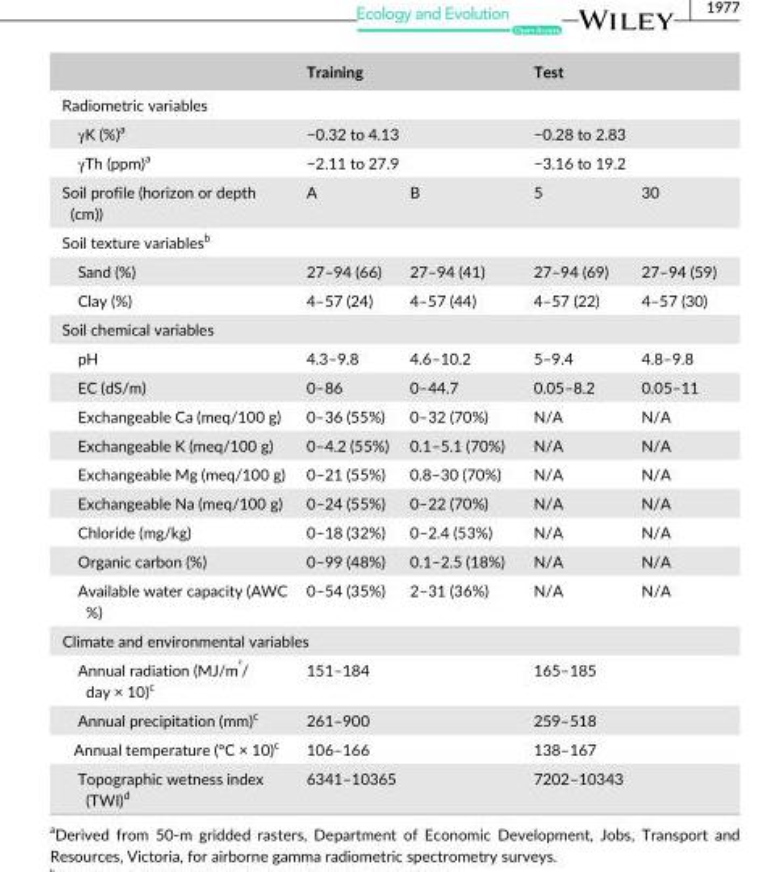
<table><thead><tr><td></td><td colspan="2">Training</td><td colspan="2">Test</td></tr></thead><tbody><tr><td colspan="5">Radiometric variables</td></tr><tr><td>γK (%)<sup>a</sup></td><td colspan="2">−0.32 to 4.13</td><td colspan="2">−0.28 to 2.83</td></tr><tr><td>γTh (ppm)<sup>a</sup></td><td colspan="2">−2.11 to 27.9</td><td colspan="2">−3.16 to 19.2</td></tr><tr><td>Soil profile (horizon or depth (cm))</td><td>A</td><td>B</td><td>5</td><td>30</td></tr><tr><td colspan="5">Soil texture variables<sup>b</sup></td></tr><tr><td>Sand (%)</td><td>27–94 (66)</td><td>27–94 (41)</td><td>27–94 (69)</td><td>27–94 (59)</td></tr><tr><td>Clay (%)</td><td>4–57 (24)</td><td>4–57 (44)</td><td>4–57 (22)</td><td>4–57 (30)</td></tr><tr><td colspan="5">Soil chemical variables</td></tr><tr><td>pH</td><td>4.3–9.8</td><td>4.6–10.2</td><td>5–9.4</td><td>4.8–9.8</td></tr><tr><td>EC (dS/m)</td><td>0–86</td><td>0–44.7</td><td>0.05–8.2</td><td>0.05–11</td></tr><tr><td>Exchangeable Ca (meq/100 g)</td><td>0–36 (55%)</td><td>0–32 (70%)</td><td>N/A</td><td>N/A</td></tr><tr><td>Exchangeable K (meq/100 g)</td><td>0–4.2 (55%)</td><td>0.1–5.1 (70%)</td><td>N/A</td><td>N/A</td></tr><tr><td>Exchangeable Mg (meq/100 g)</td><td>0–21 (55%)</td><td>0.8–30 (70%)</td><td>N/A</td><td>N/A</td></tr><tr><td>Exchangeable Na (meq/100 g)</td><td>0–24 (55%)</td><td>0–22 (70%)</td><td>N/A</td><td>N/A</td></tr><tr><td>Chloride (mg/kg)</td><td>0–18 (32%)</td><td>0–2.4 (53%)</td><td>N/A</td><td>N/A</td></tr><tr><td>Organic carbon (%)</td><td>0–99 (48%)</td><td>0.1–2.5 (18%)</td><td>N/A</td><td>N/A</td></tr><tr><td>Available water capacity (AWC %)</td><td>0–54 (35%)</td><td>2–31 (36%)</td><td>N/A</td><td>N/A</td></tr><tr><td colspan="5">Climate and environmental variables</td></tr><tr><td>Annual radiation (MJ/m²/ day × 10)<sup>c</sup></td><td colspan="2">151–184</td><td colspan="2">165–185</td></tr><tr><td>Annual precipitation (mm)<sup>c</sup></td><td colspan="2">261–900</td><td colspan="2">259–518</td></tr><tr><td>Annual temperature (°C × 10)<sup>c</sup></td><td colspan="2">106–166</td><td colspan="2">138–167</td></tr><tr><td>Topographic wetness index (TWI)<sup>d</sup></td><td colspan="2">6341–10365</td><td colspan="2">7202–10343</td></tr></tbody></table>